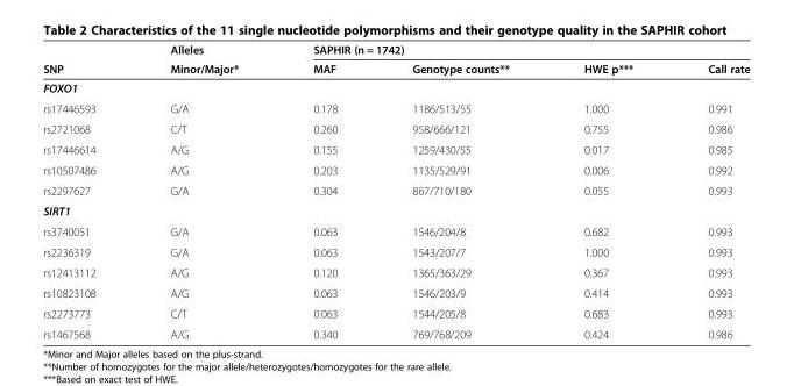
<table><thead><tr><td rowspan="2">SNP</td><td rowspan="2">Alleles Minor/Major*</td><td colspan="4">SAPHIR (n = 1742)</td></tr><tr><td>MAF</td><td>Genotype counts**</td><td>HWE p***</td><td>Call rate</td></tr></thead><tbody><tr><td colspan="6">FOXO1</td></tr><tr><td>rs17446593</td><td>G/A</td><td>0.178</td><td>1186/513/55</td><td>1.000</td><td>0.991</td></tr><tr><td>rs2721068</td><td>C/T</td><td>0.260</td><td>958/666/121</td><td>0.755</td><td>0.986</td></tr><tr><td>rs17446614</td><td>A/G</td><td>0.155</td><td>1259/430/55</td><td>0.017</td><td>0.985</td></tr><tr><td>rs10507486</td><td>A/G</td><td>0.203</td><td>1135/529/91</td><td>0.006</td><td>0.992</td></tr><tr><td>rs2297627</td><td>G/A</td><td>0.304</td><td>867/710/180</td><td>0.055</td><td>0.993</td></tr><tr><td colspan="6">SIRT1</td></tr><tr><td>rs3740051</td><td>G/A</td><td>0.063</td><td>1546/204/8</td><td>0.682</td><td>0.993</td></tr><tr><td>rs2236319</td><td>G/A</td><td>0.063</td><td>1543/207/7</td><td>1.000</td><td>0.993</td></tr><tr><td>rs12413112</td><td>A/G</td><td>0.120</td><td>1365/363/29</td><td>0.367</td><td>0.993</td></tr><tr><td>rs10823108</td><td>A/G</td><td>0.063</td><td>1546/203/9</td><td>0.414</td><td>0.993</td></tr><tr><td>rs2273773</td><td>C/T</td><td>0.063</td><td>1544/205/8</td><td>0.683</td><td>0.993</td></tr><tr><td>rs1467568</td><td>A/G</td><td>0.340</td><td>769/768/209</td><td>0.424</td><td>0.986</td></tr></tbody></table>